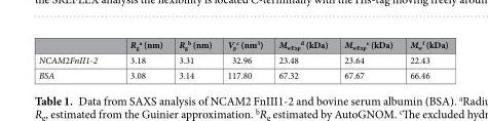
<table><thead><tr><td></td><td>R<sub>g</sub> <sup>a</sup> (nm)</td><td>R<sub>g</sub> <sup>b</sup> (nm)</td><td>V<sub>p</sub> <sup>c</sup> (nm<sup>3</sup>)</td><td>M<sub>wExp</sub> <sup>d</sup> (kDa)</td><td>M<sub>wExp</sub> <sup>e</sup> (kDa)</td><td>M<sub>w</sub> <sup>f</sup> (kDa)</td></tr></thead><tbody><tr><td>NCAM2FnII1-2</td><td>3.18</td><td>3.31</td><td>32.96</td><td>23.48</td><td>23.64</td><td>22.43</td></tr><tr><td>BSA</td><td>3.08</td><td>3.14</td><td>117.80</td><td>67.32</td><td>67.67</td><td>66.46</td></tr></tbody></table>